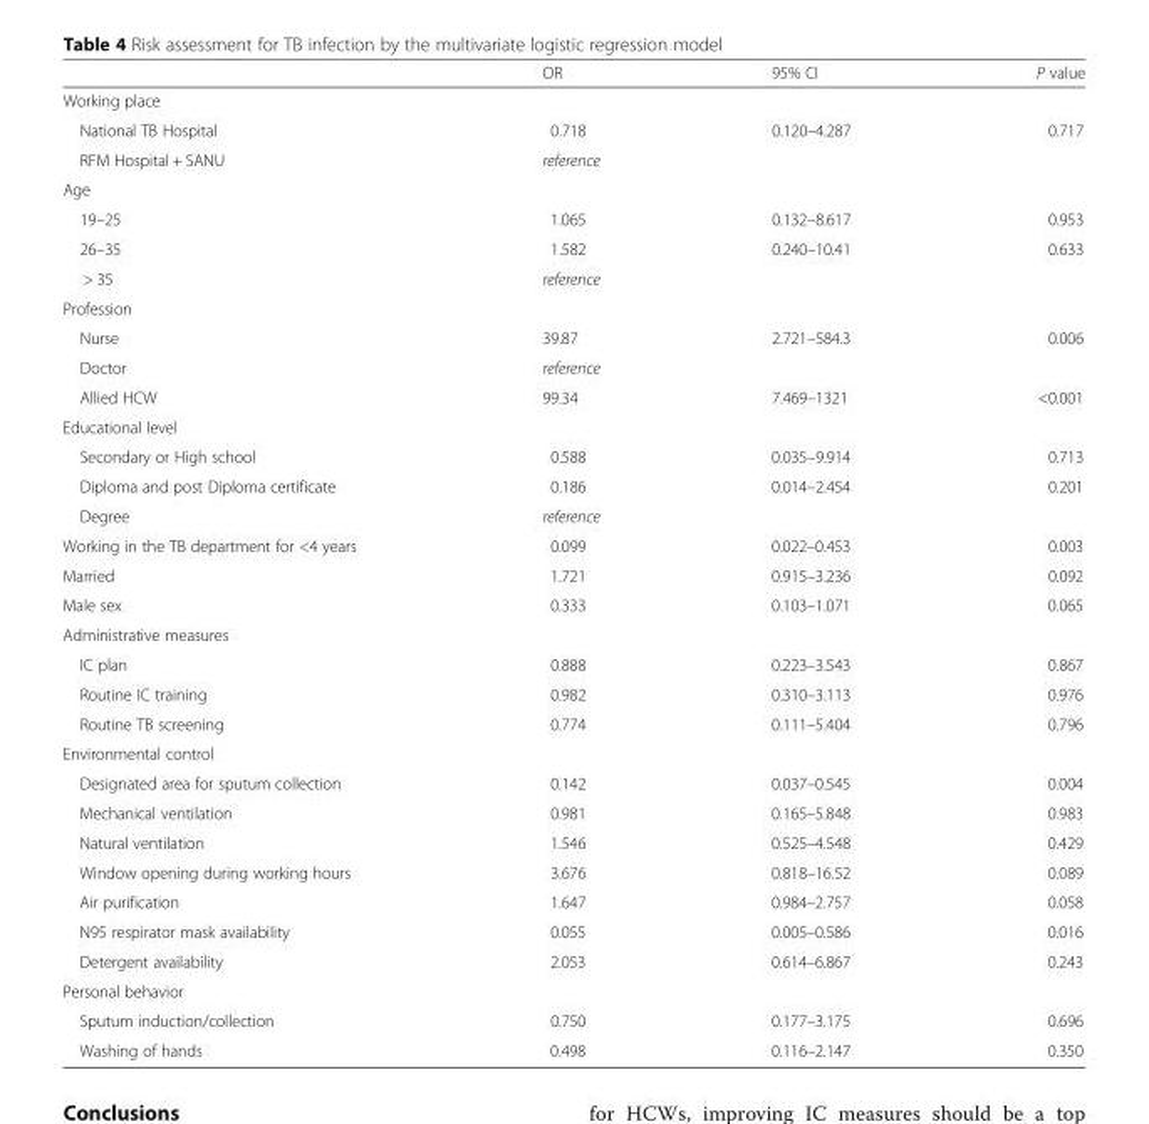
<table><thead><tr><td></td><td>OR</td><td>95% CI</td><td>P value</td></tr></thead><tbody><tr><td colspan="4">Working place</td></tr><tr><td>National TB Hospital</td><td>0.718</td><td>0.120–4.287</td><td>0.717</td></tr><tr><td>RFM Hospital + SANU</td><td colspan="3">reference</td></tr><tr><td colspan="4">Age</td></tr><tr><td>19–25</td><td>1.065</td><td>0.132–8.617</td><td>0.953</td></tr><tr><td>26–35</td><td>1.582</td><td>0.240–10.41</td><td>0.633</td></tr><tr><td>&gt; 35</td><td colspan="3">reference</td></tr><tr><td colspan="4">Profession</td></tr><tr><td>Nurse</td><td>39.87</td><td>2.721–584.3</td><td>0.006</td></tr><tr><td>Doctor</td><td colspan="3">reference</td></tr><tr><td>Allied HCW</td><td>99.34</td><td>7.469–1321</td><td>&lt;0.001</td></tr><tr><td colspan="4">Educational level</td></tr><tr><td>Secondary or High school</td><td>0.588</td><td>0.035–9.914</td><td>0.713</td></tr><tr><td>Diploma and post Diploma certificate</td><td>0.186</td><td>0.014–2.454</td><td>0.201</td></tr><tr><td>Degree</td><td colspan="3">reference</td></tr><tr><td>Working in the TB department for &lt;4 years</td><td>0.099</td><td>0.022–0.453</td><td>0.003</td></tr><tr><td>Married</td><td>1.721</td><td>0.915–3.236</td><td>0.092</td></tr><tr><td>Male sex</td><td>0.333</td><td>0.103–1.071</td><td>0.065</td></tr><tr><td colspan="4">Administrative measures</td></tr><tr><td>IC plan</td><td>0.888</td><td>0.223–3.543</td><td>0.867</td></tr><tr><td>Routine IC training</td><td>0.982</td><td>0.310–3.113</td><td>0.976</td></tr><tr><td>Routine TB screening</td><td>0.774</td><td>0.111–5.404</td><td>0.796</td></tr><tr><td colspan="4">Environmental control</td></tr><tr><td>Designated area for sputum collection</td><td>0.142</td><td>0.037–0.545</td><td>0.004</td></tr><tr><td>Mechanical ventilation</td><td>0.981</td><td>0.165–5.848</td><td>0.983</td></tr><tr><td>Natural ventilation</td><td>1.546</td><td>0.525–4.548</td><td>0.429</td></tr><tr><td>Window opening during working hours</td><td>3.676</td><td>0.818–16.52</td><td>0.089</td></tr><tr><td>Air purification</td><td>1.647</td><td>0.984–2.757</td><td>0.058</td></tr><tr><td>N95 respirator mask availability</td><td>0.055</td><td>0.005–0.586</td><td>0.016</td></tr><tr><td>Detergent availability</td><td>2.053</td><td>0.614–6.867</td><td>0.243</td></tr><tr><td colspan="4">Personal behavior</td></tr><tr><td>Sputum induction/collection</td><td>0.750</td><td>0.177–3.175</td><td>0.696</td></tr><tr><td>Washing of hands</td><td>0.498</td><td>0.116–2.147</td><td>0.350</td></tr></tbody></table>